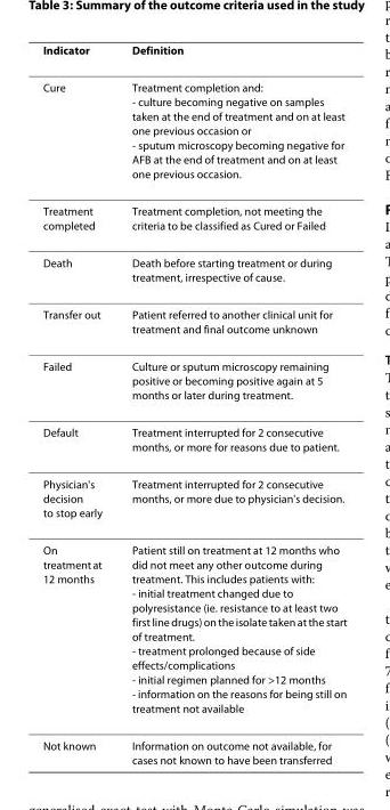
<table><thead><tr><td>Indicator</td><td>Definition</td></tr></thead><tbody><tr><td>Cure</td><td>Treatment completion and: - culture becoming negative on samples taken at the end of treatment and on at least one previous occasion or - sputum microscopy becoming negative for AFB at the end of treatment and on at least one previous occasion.</td></tr><tr><td>Treatment completed</td><td>Treatment completion, not meeting the criteria to be classified as Cured or Failed</td></tr><tr><td>Death</td><td>Death before starting treatment or during treatment, irrespective of cause.</td></tr><tr><td>Transfer out</td><td>Patient referred to another clinical unit for treatment and final outcome unknown</td></tr><tr><td>Failed</td><td>Culture or sputum microscopy remaining positive or becoming positive again at 5 months or later during treatment.</td></tr><tr><td>Default</td><td>Treatment interrupted for 2 consecutive months, or more for reasons due to patient.</td></tr><tr><td>Physician&#x27;s decision to stop early</td><td>Treatment interrupted for 2 consecutive months, or more due to physician&#x27;s decision.</td></tr><tr><td>On treatment at 12 months</td><td>Patient still on treatment at 12 months who did not meet any other outcome during treatment. This includes patients with: - initial treatment changed due to polyresistance (ie. resistance to at least two first line drugs) on the isolate taken at the start of treatment. - treatment prolonged because of side effects/complications - initial regimen planned for &gt;12 months - information on the reasons for being still on treatment not available</td></tr><tr><td>Not known</td><td>Information on outcome not available, for cases not known to have been transferred</td></tr></tbody></table>